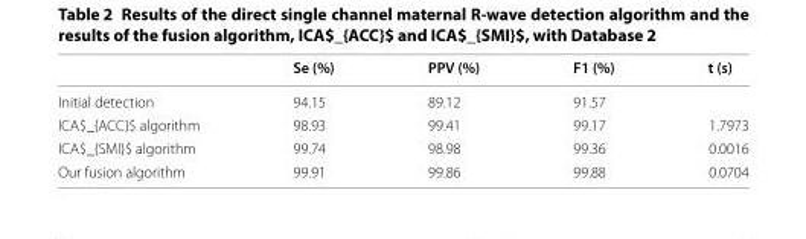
<table><thead><tr><td></td><td>Se (%)</td><td>PPV (%)</td><td>F1 (%)</td><td>t (s)</td></tr></thead><tbody><tr><td>Initial detection</td><td>94.15</td><td>89.12</td><td>91.57</td><td></td></tr><tr><td>ICA$_{ACC}$ algorithm</td><td>98.93</td><td>99.41</td><td>99.17</td><td>1.7973</td></tr><tr><td>ICA$_{SMI}$ algorithm</td><td>99.74</td><td>98.98</td><td>99.36</td><td>0.0016</td></tr><tr><td>Our fusion algorithm</td><td>99.91</td><td>99.86</td><td>99.88</td><td>0.0704</td></tr></tbody></table>